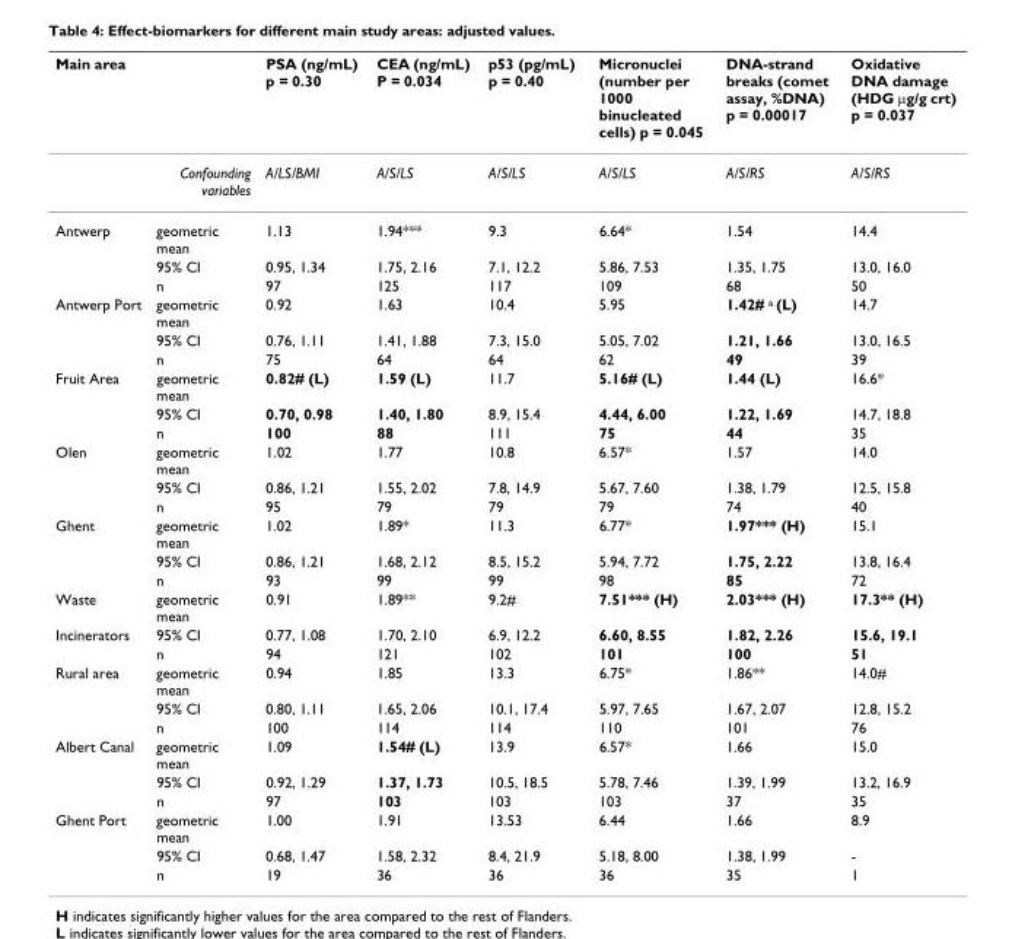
<table><thead><tr><td>Main area</td><td></td><td>PSA (ng/mL) p = 0.30</td><td>CEA (ng/mL) P = 0.034</td><td>p53 (pg/mL) p = 0.40</td><td>Micronuclei (number per 1000 binucleated cells) p = 0.045</td><td>DNA-strand breaks (comet assay, %DNA) p = 0.00017</td><td>Oxidative DNA damage (HDG μg/g crt) p = 0.037</td></tr></thead><tbody><tr><td></td><td>Confounding variables</td><td>A/LS/BMI</td><td>A/S/LS</td><td>A/S/LS</td><td>A/S/LS</td><td>A/S/RS</td><td>A/S/RS</td></tr><tr><td rowspan="3">Antwerp</td><td>geometric mean</td><td>1.13</td><td>1.94***</td><td>9.3</td><td>6.64*</td><td>1.54</td><td>14.4</td></tr><tr><td>95% CI</td><td>0.95, 1.34</td><td>1.75, 2.16</td><td>7.1, 12.2</td><td>5.86, 7.53</td><td>1.35, 1.75</td><td>13.0, 16.0</td></tr><tr><td>n</td><td>97</td><td>125</td><td>117</td><td>109</td><td>68</td><td>50</td></tr><tr><td rowspan="3">Antwerp Port</td><td>geometric mean</td><td>0.92</td><td>1.63</td><td>10.4</td><td>5.95</td><td>1.42# <sup>a</sup> (L)</td><td>14.7</td></tr><tr><td>95% CI</td><td>0.76, 1.11</td><td>1.41, 1.88</td><td>7.3, 15.0</td><td>5.05, 7.02</td><td>1.21, 1.66</td><td>13.0, 16.5</td></tr><tr><td>n</td><td>75</td><td>64</td><td>64</td><td>62</td><td>49</td><td>39</td></tr><tr><td rowspan="3">Fruit Area</td><td>geometric mean</td><td>0.82# (L)</td><td>1.59 (L)</td><td>11.7</td><td>5.16# (L)</td><td>1.44 (L)</td><td>16.6*</td></tr><tr><td>95% CI</td><td>0.70, 0.98</td><td>1.40, 1.80</td><td>8.9, 15.4</td><td>4.44, 6.00</td><td>1.22, 1.69</td><td>14.7, 18.8</td></tr><tr><td>n</td><td>100</td><td>88</td><td>111</td><td>75</td><td>44</td><td>35</td></tr><tr><td rowspan="3">Olen</td><td>geometric mean</td><td>1.02</td><td>1.77</td><td>10.8</td><td>6.57*</td><td>1.57</td><td>14.0</td></tr><tr><td>95% CI</td><td>0.86, 1.21</td><td>1.55, 2.02</td><td>7.8, 14.9</td><td>5.67, 7.60</td><td>1.38, 1.79</td><td>12.5, 15.8</td></tr><tr><td>n</td><td>95</td><td>79</td><td>79</td><td>79</td><td>74</td><td>40</td></tr><tr><td rowspan="3">Ghent</td><td>geometric mean</td><td>1.02</td><td>1.89*</td><td>11.3</td><td>6.77*</td><td>1.97*** (H)</td><td>15.1</td></tr><tr><td>95% CI</td><td>0.86, 1.21</td><td>1.68, 2.12</td><td>8.5, 15.2</td><td>5.94, 7.72</td><td>1.75, 2.22</td><td>13.8, 16.4</td></tr><tr><td>n</td><td>93</td><td>99</td><td>99</td><td>98</td><td>85</td><td>72</td></tr><tr><td>Waste</td><td>geometric mean</td><td>0.91</td><td>1.89**</td><td>9.2#</td><td>7.51*** (H)</td><td>2.03*** (H)</td><td>17.3** (H)</td></tr><tr><td rowspan="2">Incinerators</td><td>95% CI</td><td>0.77, 1.08</td><td>1.70, 2.10</td><td>6.9, 12.2</td><td>6.60, 8.55</td><td>1.82, 2.26</td><td>15.6, 19.1</td></tr><tr><td>n</td><td>94</td><td>121</td><td>102</td><td>101</td><td>100</td><td>51</td></tr><tr><td rowspan="3">Rural area</td><td>geometric mean</td><td>0.94</td><td>1.85</td><td>13.3</td><td>6.75*</td><td>1.86**</td><td>14.0#</td></tr><tr><td>95% CI</td><td>0.80, 1.11</td><td>1.65, 2.06</td><td>10.1, 17.4</td><td>5.97, 7.65</td><td>1.67, 2.07</td><td>12.8, 15.2</td></tr><tr><td>n</td><td>100</td><td>114</td><td>114</td><td>110</td><td>101</td><td>76</td></tr><tr><td rowspan="3">Albert Canal</td><td>geometric mean</td><td>1.09</td><td>1.54# (L)</td><td>13.9</td><td>6.57*</td><td>1.66</td><td>15.0</td></tr><tr><td>95% CI</td><td>0.92, 1.29</td><td>1.37, 1.73</td><td>10.5, 18.5</td><td>5.78, 7.46</td><td>1.39, 1.99</td><td>13.2, 16.9</td></tr><tr><td>n</td><td>97</td><td>103</td><td>103</td><td>103</td><td>37</td><td>35</td></tr><tr><td rowspan="3">Ghent Port</td><td>geometric mean</td><td>1.00</td><td>1.91</td><td>13.53</td><td>6.44</td><td>1.66</td><td>8.9</td></tr><tr><td>95% CI</td><td>0.68, 1.47</td><td>1.58, 2.32</td><td>8.4, 21.9</td><td>5.18, 8.00</td><td>1.38, 1.99</td><td>-</td></tr><tr><td>n</td><td>19</td><td>36</td><td>36</td><td>36</td><td>35</td><td>1</td></tr></tbody></table>